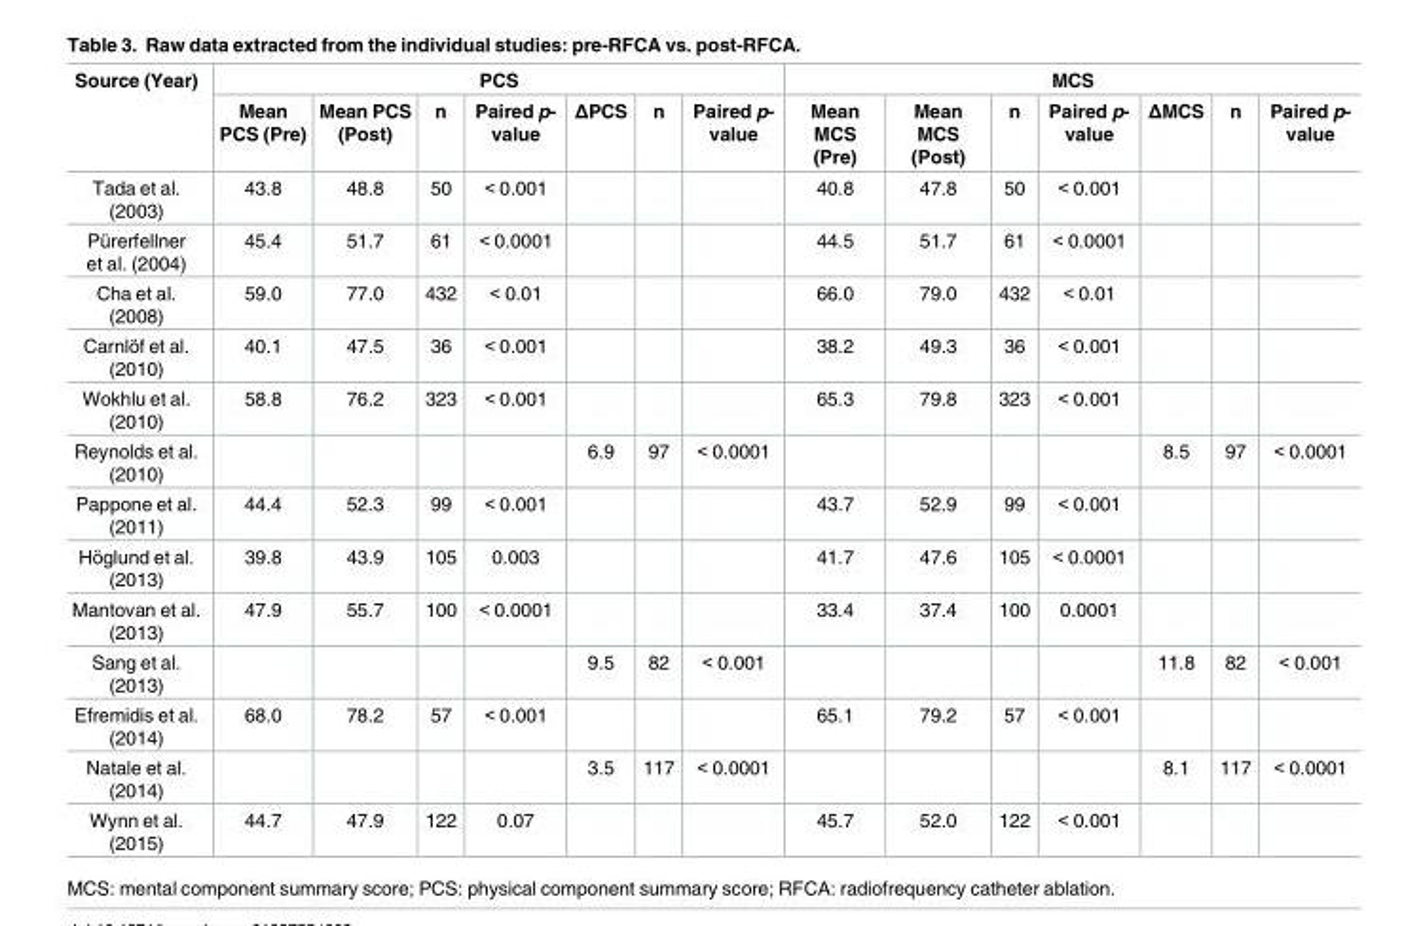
<table><thead><tr><td rowspan="2">Source (Year)</td><td colspan="7">PCS</td><td colspan="7">MCS</td></tr><tr><td>Mean PCS (Pre)</td><td>Mean PCS (Post)</td><td>n</td><td>Paired p- value</td><td>ΔPCS</td><td>n</td><td>Paired p- value</td><td>Mean MCS (Pre)</td><td>Mean MCS (Post)</td><td>n</td><td>Paired p- value</td><td>ΔMCS</td><td>n</td><td>Paired p- value</td></tr></thead><tbody><tr><td>Tada et al. (2003)</td><td>43.8</td><td>48.8</td><td>50</td><td>&lt; 0.001</td><td></td><td></td><td></td><td>40.8</td><td>47.8</td><td>50</td><td>&lt; 0.001</td><td></td><td></td><td></td></tr><tr><td>Pu¨rerfellner et al. (2004)</td><td>45.4</td><td>51.7</td><td>61</td><td>&lt; 0.0001</td><td></td><td></td><td></td><td>44.5</td><td>51.7</td><td>61</td><td>&lt; 0.0001</td><td></td><td></td><td></td></tr><tr><td>Cha et al. (2008)</td><td>59.0</td><td>77.0</td><td>432</td><td>&lt; 0.01</td><td></td><td></td><td></td><td>66.0</td><td>79.0</td><td>432</td><td>&lt; 0.01</td><td></td><td></td><td></td></tr><tr><td>Carnlo¨f et al. (2010)</td><td>40.1</td><td>47.5</td><td>36</td><td>&lt; 0.001</td><td></td><td></td><td></td><td>38.2</td><td>49.3</td><td>36</td><td>&lt; 0.001</td><td></td><td></td><td></td></tr><tr><td>Wokhlu et al. (2010)</td><td>58.8</td><td>76.2</td><td>323</td><td>&lt; 0.001</td><td></td><td></td><td></td><td>65.3</td><td>79.8</td><td>323</td><td>&lt; 0.001</td><td></td><td></td><td></td></tr><tr><td>Reynolds et al. (2010)</td><td></td><td></td><td></td><td></td><td>6.9</td><td>97</td><td>&lt; 0.0001</td><td></td><td></td><td></td><td></td><td>8.5</td><td>97</td><td>&lt; 0.0001</td></tr><tr><td>Pappone et al. (2011)</td><td>44.4</td><td>52.3</td><td>99</td><td>&lt; 0.001</td><td></td><td></td><td></td><td>43.7</td><td>52.9</td><td>99</td><td>&lt; 0.001</td><td></td><td></td><td></td></tr><tr><td>Ho¨glund et al. (2013)</td><td>39.8</td><td>43.9</td><td>105</td><td>0.003</td><td></td><td></td><td></td><td>41.7</td><td>47.6</td><td>105</td><td>&lt; 0.0001</td><td></td><td></td><td></td></tr><tr><td>Mantovan et al. (2013)</td><td>47.9</td><td>55.7</td><td>100</td><td>&lt; 0.0001</td><td></td><td></td><td></td><td>33.4</td><td>37.4</td><td>100</td><td>0.0001</td><td></td><td></td><td></td></tr><tr><td>Sang et al. (2013)</td><td></td><td></td><td></td><td></td><td>9.5</td><td>82</td><td>&lt; 0.001</td><td></td><td></td><td></td><td></td><td>11.8</td><td>82</td><td>&lt; 0.001</td></tr><tr><td>Efremidis et al. (2014)</td><td>68.0</td><td>78.2</td><td>57</td><td>&lt; 0.001</td><td></td><td></td><td></td><td>65.1</td><td>79.2</td><td>57</td><td>&lt; 0.001</td><td></td><td></td><td></td></tr><tr><td>Natale et al. (2014)</td><td></td><td></td><td></td><td></td><td>3.5</td><td>117</td><td>&lt; 0.0001</td><td></td><td></td><td></td><td></td><td>8.1</td><td>117</td><td>&lt; 0.0001</td></tr><tr><td>Wynn et al. (2015)</td><td>44.7</td><td>47.9</td><td>122</td><td>0.07</td><td></td><td></td><td></td><td>45.7</td><td>52.0</td><td>122</td><td>&lt; 0.001</td><td></td><td></td><td></td></tr></tbody></table>